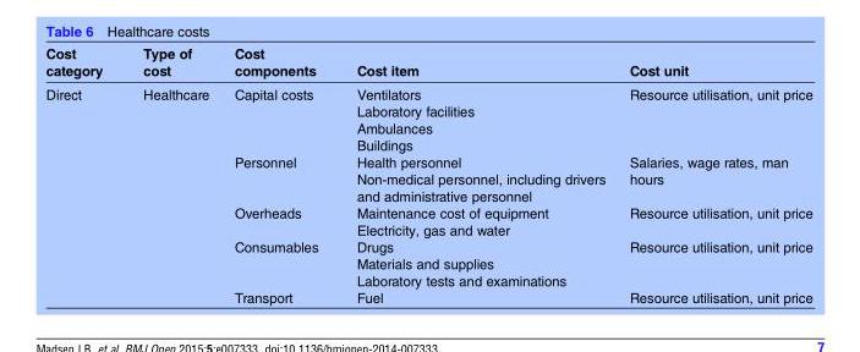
<table><thead><tr><td>Cost category</td><td>Type of cost</td><td>Cost components</td><td>Cost item</td><td>Cost unit</td></tr></thead><tbody><tr><td rowspan="5">Direct</td><td>Healthcare</td><td>Capital costs</td><td>Ventilators Laboratory facilities Ambulances Buildings</td><td>Resource utilisation, unit price</td></tr><tr><td></td><td>Personnel</td><td>Health personnel Non-medical personnel, including drivers and administrative personnel</td><td>Salaries, wage rates, man hours</td></tr><tr><td></td><td>Overheads</td><td>Maintenance cost of equipment Electricity, gas and water</td><td>Resource utilisation, unit price</td></tr><tr><td></td><td>Consumables</td><td>Drugs Materials and supplies Laboratory tests and examinations</td><td>Resource utilisation, unit price</td></tr><tr><td></td><td>Transport</td><td>Fuel</td><td>Resource utilisation, unit price</td></tr></tbody></table>